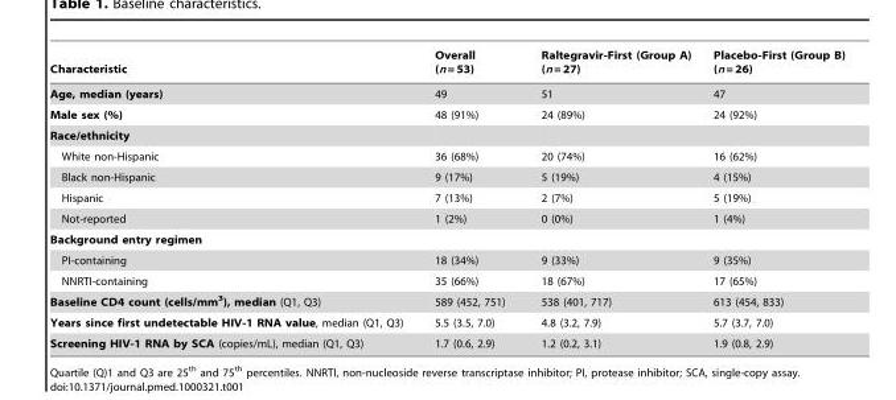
<table><thead><tr><td>Characteristic</td><td>Overall (n = 53)</td><td>Raltegravir-First (Group A) (n = 27)</td><td>Placebo-First (Group B) (n = 26)</td></tr></thead><tbody><tr><td>Age, median (years)</td><td>49</td><td>51</td><td>47</td></tr><tr><td>Male sex (%)</td><td>48 (91%)</td><td>24 (89%)</td><td>24 (92%)</td></tr><tr><td colspan="4">Race/ethnicity</td></tr><tr><td>White non-Hispanic</td><td>36 (68%)</td><td>20 (74%)</td><td>16 (62%)</td></tr><tr><td>Black non-Hispanic</td><td>9 (17%)</td><td>5 (19%)</td><td>4 (15%)</td></tr><tr><td>Hispanic</td><td>7 (13%)</td><td>2 (7%)</td><td>5 (19%)</td></tr><tr><td>Not-reported</td><td>1 (2%)</td><td>0 (0%)</td><td>1 (4%)</td></tr><tr><td colspan="4">Background entry regimen</td></tr><tr><td>PI-containing</td><td>18 (34%)</td><td>9 (33%)</td><td>9 (35%)</td></tr><tr><td>NNRTI-containing</td><td>35 (66%)</td><td>18 (67%)</td><td>17 (65%)</td></tr><tr><td>Baseline CD4 count (cells/mm<sup>3</sup>), median (Q1, Q3)</td><td>589 (452, 751)</td><td>538 (401, 717)</td><td>613 (454, 833)</td></tr><tr><td>Years since first undetectable HIV-1 RNA value, median (Q1, Q3)</td><td>5.5 (3.5, 7.0)</td><td>4.8 (3.2, 7.9)</td><td>5.7 (3.7, 7.0)</td></tr><tr><td>Screening HIV-1 RNA by SCA (copies/mL), median (Q1, Q3)</td><td>1.7 (0.6, 2.9)</td><td>1.2 (0.2, 3.1)</td><td>1.9 (0.8, 2.9)</td></tr></tbody></table>